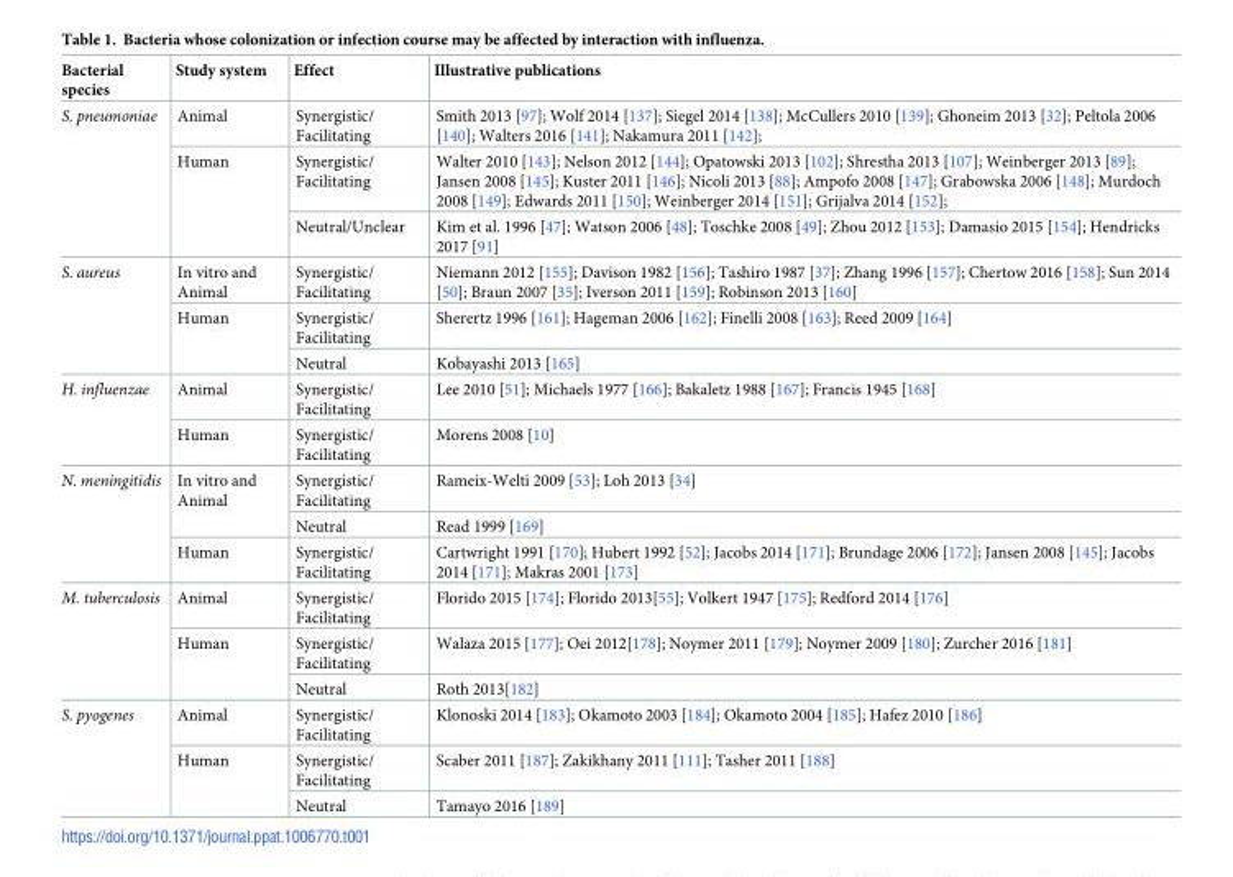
<table><thead><tr><td>Bacterial species</td><td>Study system</td><td>Effect</td><td>Illustrative publications</td></tr></thead><tbody><tr><td rowspan="3">S. pneumoniae</td><td>Animal</td><td>Synergistic/ Facilitating</td><td>Smith 2013 [97]; Wolf 2014 [137]; Siegel 2014 [138]; McCullers 2010 [139]; Ghoneim 2013 [32]; Peltola 2006 [140]; Walters 2016 [141]; Nakamura 2011 [142];</td></tr><tr><td rowspan="2">Human</td><td>Synergistic/ Facilitating</td><td>Walter 2010 [143]; Nelson 2012 [144]; Opatowski 2013 [102]; Shrestha 2013 [107]; Weinberger 2013 [89]; Jansen 2008 [145]; Kuster 2011 [146]; Nicoli 2013 [88]; Ampofo 2008 [147]; Grabowska 2006 [148]; Murdoch 2008 [149]; Edwards 2011 [150]; Weinberger 2014 [151]; Grijalva 2014 [152];</td></tr><tr><td>Neutral/Unclear</td><td>Kim et al. 1996 [47]; Watson 2006 [48]; Toschke 2008 [49]; Zhou 2012 [153]; Damasio 2015 [154]; Hendricks 2017 [91]</td></tr><tr><td rowspan="3">S. aureus</td><td>In vitro and Animal</td><td>Synergistic/ Facilitating</td><td>Niemann 2012 [155]; Davison 1982 [156]; Tashiro 1987 [37]; Zhang 1996 [157]; Chertow 2016 [158]; Sun 2014 [50]; Braun 2007 [35]; Iverson 2011 [159]; Robinson 2013 [160]</td></tr><tr><td rowspan="2">Human</td><td>Synergistic/ Facilitating</td><td>Sherertz 1996 [161]; Hageman 2006 [162]; Finelli 2008 [163]; Reed 2009 [164]</td></tr><tr><td>Neutral</td><td>Kobayashi 2013 [165]</td></tr><tr><td rowspan="2">H. influenzae</td><td>Animal</td><td>Synergistic/ Facilitating</td><td>Lee 2010 [51]; Michaels 1977 [166]; Bakaletz 1988 [167]; Francis 1945 [168]</td></tr><tr><td>Human</td><td>Synergistic/ Facilitating</td><td>Morens 2008 [10]</td></tr><tr><td rowspan="3">N. meningitidis</td><td rowspan="2">In vitro and Animal</td><td>Synergistic/ Facilitating</td><td>Rameix-Welti 2009 [53]; Loh 2013 [34]</td></tr><tr><td>Neutral</td><td>Read 1999 [169]</td></tr><tr><td>Human</td><td>Synergistic/ Facilitating</td><td>Cartwright 1991 [170]; Hubert 1992 [52]; Jacobs 2014 [171]; Brundage 2006 [172]; Jansen 2008 [145]; Jacobs 2014 [171]; Makras 2001 [173]</td></tr><tr><td rowspan="3">M. tuberculosis</td><td>Animal</td><td>Synergistic/ Facilitating</td><td>Florido 2015 [174]; Florido 2013[55]; Volkert 1947 [175]; Redford 2014 [176]</td></tr><tr><td rowspan="2">Human</td><td>Synergistic/ Facilitating</td><td>Walaza 2015 [177]; Oei 2012[178]; Noymer 2011 [179]; Noymer 2009 [180]; Zurcher 2016 [181]</td></tr><tr><td>Neutral</td><td>Roth 2013[182]</td></tr><tr><td rowspan="3">S. pyogenes</td><td>Animal</td><td>Synergistic/ Facilitating</td><td>Klonoski 2014 [183]; Okamoto 2003 [184]; Okamoto 2004 [185]; Hafez 2010 [186]</td></tr><tr><td rowspan="2">Human</td><td>Synergistic/ Facilitating</td><td>Scaber 2011 [187]; Zakikhany 2011 [111]; Tasher 2011 [188]</td></tr><tr><td>Neutral</td><td>Tamayo 2016 [189]</td></tr></tbody></table>